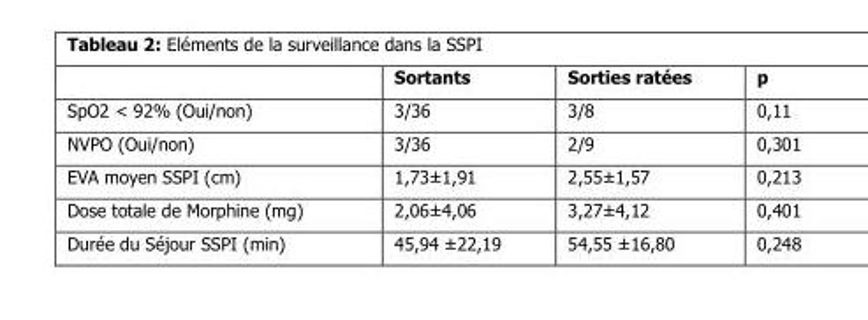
<table><thead><tr><td></td><td>Sortants</td><td>Sorties ratées</td><td>p</td></tr></thead><tbody><tr><td>SpO2 &lt; 92% (Oui/non)</td><td>3/36</td><td>3/8</td><td>0,11</td></tr><tr><td>NVPO (Oui/non)</td><td>3/36</td><td>2/9</td><td>0,301</td></tr><tr><td>EVA moyen SSPI (cm)</td><td>1,73±1,91</td><td>2,55±1,57</td><td>0,213</td></tr><tr><td>Dose totale de Morphine (mg)</td><td>2,06±4,06</td><td>3,27±4,12</td><td>0,401</td></tr><tr><td>Durée du Séjour SSPI (min)</td><td>45,94 ±22,19</td><td>54,55 ±16,80</td><td>0,248</td></tr></tbody></table>